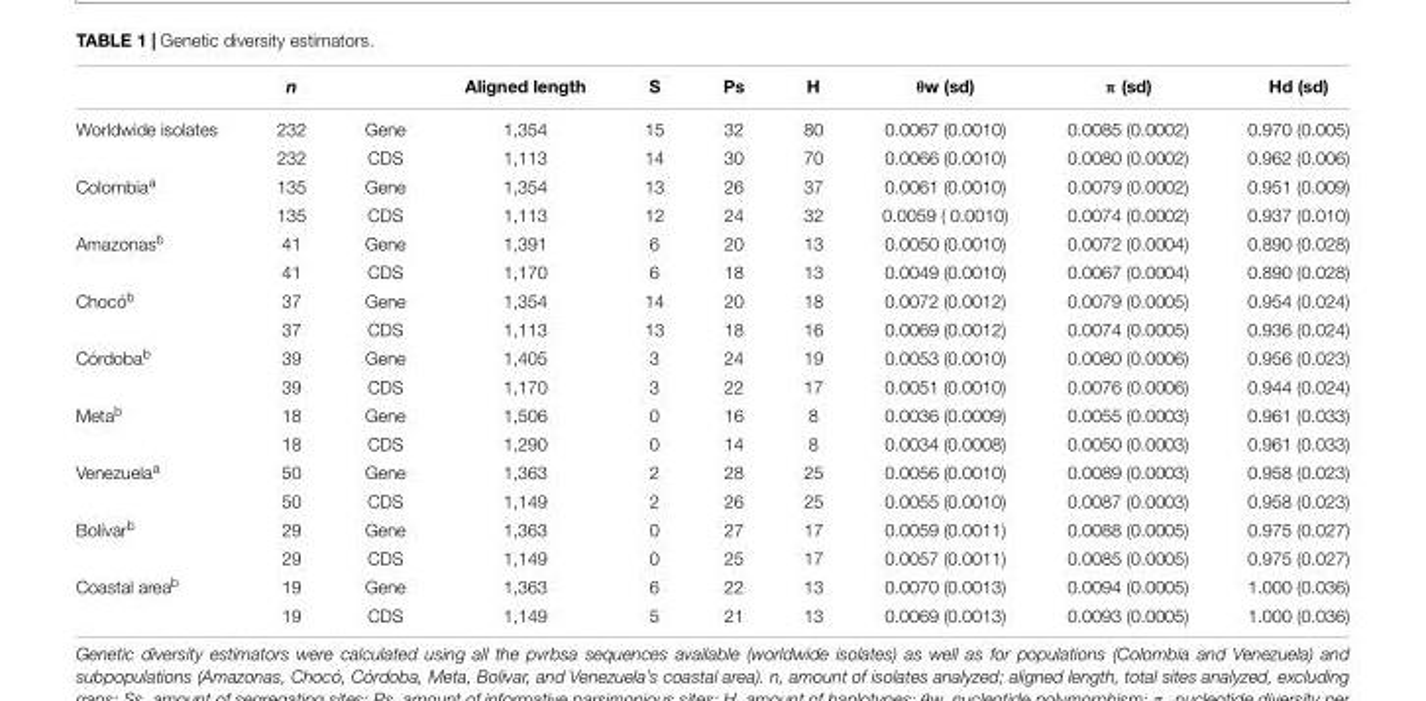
<table><thead><tr><td></td><td>n</td><td></td><td>Aligned length</td><td>S</td><td>Ps</td><td>H</td><td>θw (sd)</td><td>π (sd)</td><td>Hd (sd)</td></tr></thead><tbody><tr><td rowspan="2">Worldwide isolates</td><td>232</td><td>Gene</td><td>1,354</td><td>15</td><td>32</td><td>80</td><td>0.0067 (0.0010)</td><td>0.0085 (0.0002)</td><td>0.970 (0.005)</td></tr><tr><td>232</td><td>CDS</td><td>1,113</td><td>14</td><td>30</td><td>70</td><td>0.0066 (0.0010)</td><td>0.0080 (0.0002)</td><td>0.962 (0.006)</td></tr><tr><td rowspan="2">Colombia<sup>a</sup></td><td>135</td><td>Gene</td><td>1,354</td><td>13</td><td>26</td><td>37</td><td>0.0061 (0.0010)</td><td>0.0079 (0.0002)</td><td>0.951 (0.009)</td></tr><tr><td>135</td><td>CDS</td><td>1,113</td><td>12</td><td>24</td><td>32</td><td>0.0059 ( 0.0010)</td><td>0.0074 (0.0002)</td><td>0.937 (0.010)</td></tr><tr><td rowspan="2">Amazonas<sup>b</sup></td><td>41</td><td>Gene</td><td>1,391</td><td>6</td><td>20</td><td>13</td><td>0.0050 (0.0010)</td><td>0.0072 (0.0004)</td><td>0.890 (0.028)</td></tr><tr><td>41</td><td>CDS</td><td>1,170</td><td>6</td><td>18</td><td>13</td><td>0.0049 (0.0010)</td><td>0.0067 (0.0004)</td><td>0.890 (0.028)</td></tr><tr><td rowspan="2">Chocó<sup>b</sup></td><td>37</td><td>Gene</td><td>1,354</td><td>14</td><td>20</td><td>18</td><td>0.0072 (0.0012)</td><td>0.0079 (0.0005)</td><td>0.954 (0.024)</td></tr><tr><td>37</td><td>CDS</td><td>1,113</td><td>13</td><td>18</td><td>16</td><td>0.0069 (0.0012)</td><td>0.0074 (0.0005)</td><td>0.936 (0.024)</td></tr><tr><td rowspan="2">Córdoba<sup>b</sup></td><td>39</td><td>Gene</td><td>1,405</td><td>3</td><td>24</td><td>19</td><td>0.0053 (0.0010)</td><td>0.0080 (0.0006)</td><td>0.956 (0.023)</td></tr><tr><td>39</td><td>CDS</td><td>1,170</td><td>3</td><td>22</td><td>17</td><td>0.0051 (0.0010)</td><td>0.0076 (0.0006)</td><td>0.944 (0.024)</td></tr><tr><td rowspan="2">Meta<sup>b</sup></td><td>18</td><td>Gene</td><td>1,506</td><td>0</td><td>16</td><td>8</td><td>0.0036 (0.0009)</td><td>0.0055 (0.0003)</td><td>0.961 (0.033)</td></tr><tr><td>18</td><td>CDS</td><td>1,290</td><td>0</td><td>14</td><td>8</td><td>0.0034 (0.0008)</td><td>0.0050 (0.0003)</td><td>0.961 (0.033)</td></tr><tr><td rowspan="2">Venezuela<sup>a</sup></td><td>50</td><td>Gene</td><td>1,363</td><td>2</td><td>28</td><td>25</td><td>0.0056 (0.0010)</td><td>0.0089 (0.0003)</td><td>0.958 (0.023)</td></tr><tr><td>50</td><td>CDS</td><td>1,149</td><td>2</td><td>26</td><td>25</td><td>0.0055 (0.0010)</td><td>0.0087 (0.0003)</td><td>0.958 (0.023)</td></tr><tr><td rowspan="2">Bolívar<sup>b</sup></td><td>29</td><td>Gene</td><td>1,363</td><td>0</td><td>27</td><td>17</td><td>0.0059 (0.0011)</td><td>0.0088 (0.0005)</td><td>0.975 (0.027)</td></tr><tr><td>29</td><td>CDS</td><td>1,149</td><td>0</td><td>25</td><td>17</td><td>0.0057 (0.0011)</td><td>0.0085 (0.0005)</td><td>0.975 (0.027)</td></tr><tr><td rowspan="2">Coastal area<sup>b</sup></td><td>19</td><td>Gene</td><td>1,363</td><td>6</td><td>22</td><td>13</td><td>0.0070 (0.0013)</td><td>0.0094 (0.0005)</td><td>1.000 (0.036)</td></tr><tr><td>19</td><td>CDS</td><td>1,149</td><td>5</td><td>21</td><td>13</td><td>0.0069 (0.0013)</td><td>0.0093 (0.0005)</td><td>1.000 (0.036)</td></tr></tbody></table>